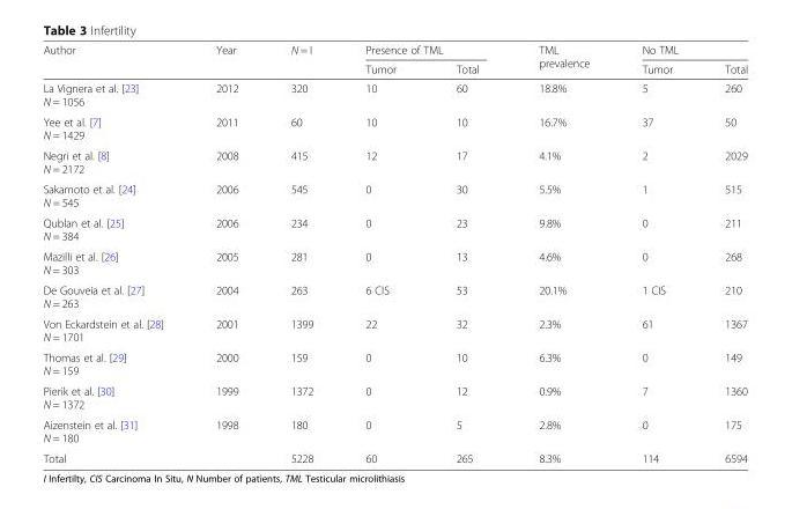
<table><thead><tr><td rowspan="2">Author</td><td rowspan="2">Year</td><td rowspan="2">N = I</td><td colspan="2">Presence of TML</td><td rowspan="2">TML prevalence</td><td colspan="2">No TML</td></tr><tr><td>Tumor</td><td>Total</td><td>Tumor</td><td>Total</td></tr></thead><tbody><tr><td>La Vignera et al. [23] N = 1056</td><td>2012</td><td>320</td><td>10</td><td>60</td><td>18.8%</td><td>5</td><td>260</td></tr><tr><td>Yee et al. [7] N = 1429</td><td>2011</td><td>60</td><td>10</td><td>10</td><td>16.7%</td><td>37</td><td>50</td></tr><tr><td>Negri et al. [8] N = 2172</td><td>2008</td><td>415</td><td>12</td><td>17</td><td>4.1%</td><td>2</td><td>2029</td></tr><tr><td>Sakamoto et al. [24] N = 545</td><td>2006</td><td>545</td><td>0</td><td>30</td><td>5.5%</td><td>1</td><td>515</td></tr><tr><td>Qublan et al. [25] N = 384</td><td>2006</td><td>234</td><td>0</td><td>23</td><td>9.8%</td><td>0</td><td>211</td></tr><tr><td>Mazilli et al. [26] N = 303</td><td>2005</td><td>281</td><td>0</td><td>13</td><td>4.6%</td><td>0</td><td>268</td></tr><tr><td>De Gouveia et al. [27] N = 263</td><td>2004</td><td>263</td><td>6 CIS</td><td>53</td><td>20.1%</td><td>1 CIS</td><td>210</td></tr><tr><td>Von Eckardstein et al. [28] N = 1701</td><td>2001</td><td>1399</td><td>22</td><td>32</td><td>2.3%</td><td>61</td><td>1367</td></tr><tr><td>Thomas et al. [29] N = 159</td><td>2000</td><td>159</td><td>0</td><td>10</td><td>6.3%</td><td>0</td><td>149</td></tr><tr><td>Pierik et al. [30] N = 1372</td><td>1999</td><td>1372</td><td>0</td><td>12</td><td>0.9%</td><td>7</td><td>1360</td></tr><tr><td>Aizenstein et al. [31] N = 180</td><td>1998</td><td>180</td><td>0</td><td>5</td><td>2.8%</td><td>0</td><td>175</td></tr><tr><td>Total</td><td></td><td>5228</td><td>60</td><td>265</td><td>8.3%</td><td>114</td><td>6594</td></tr></tbody></table>